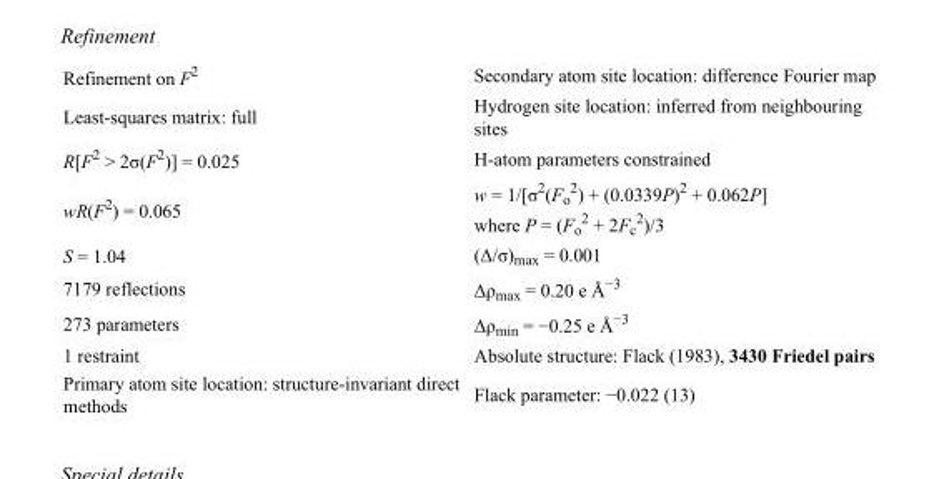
<table><tbody><tr><td>Refinement on F<sup>2</sup></td><td>Secondary atom site location: difference Fourier map</td></tr><tr><td>Least-squares matrix: full</td><td>Hydrogen site location: inferred from neighbouring sites</td></tr><tr><td>R[F<sup>2</sup> &gt; 2σ(F<sup>2</sup>)] = 0.025</td><td>H-atom parameters constrained</td></tr><tr><td>wR(F<sup>2</sup>) = 0.065</td><td>w = 1/[σ<sup>2</sup>(F<sub>o</sub> <sup>2</sup>) + (0.0339P)<sup>2</sup> + 0.062P] where P = (F<sub>o</sub> <sup>2</sup> + 2F<sub>c</sub> <sup>2</sup>)/3</td></tr><tr><td>S = 1.04</td><td>(Δ/σ)<sub>max</sub> = 0.001</td></tr><tr><td>7179 reflections</td><td>Δρ<sub>max</sub> = 0.20 e Å<sup>−3</sup></td></tr><tr><td>273 parameters</td><td>Δρ<sub>min</sub> = −0.25 e Å<sup>−3</sup></td></tr><tr><td>1 restraint</td><td>Absolute structure: Flack (1983), 3430 Friedel pairs</td></tr><tr><td>Primary atom site location: structure-invariant direct methods</td><td>Flack parameter: −0.022 (13)</td></tr></tbody></table>